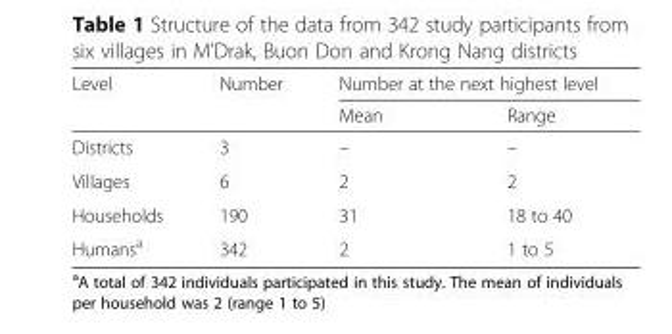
<table><thead><tr><td rowspan="2">Level</td><td rowspan="2">Number</td><td colspan="2">Number at the next highest level</td></tr><tr><td>Mean</td><td>Range</td></tr></thead><tbody><tr><td>Districts</td><td>3</td><td>–</td><td>–</td></tr><tr><td>Villages</td><td>6</td><td>2</td><td>2</td></tr><tr><td>Households</td><td>190</td><td>31</td><td>18 to 40</td></tr><tr><td>Humans<sup>a</sup></td><td>342</td><td>2</td><td>1 to 5</td></tr></tbody></table>